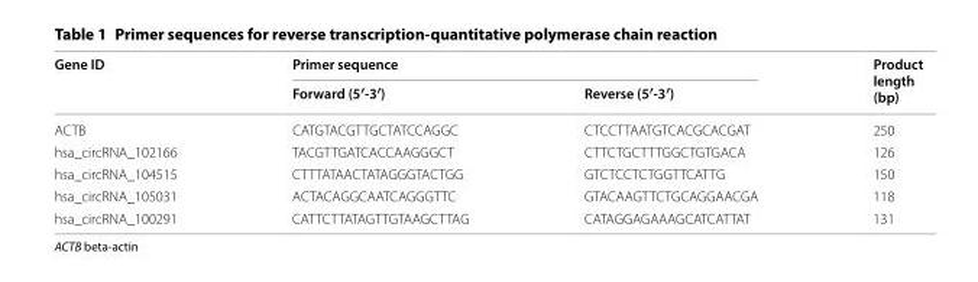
<table><thead><tr><td rowspan="2">Gene ID</td><td colspan="2">Primer sequence</td><td rowspan="2">Product length (bp)</td></tr><tr><td>Forward (5′‑3′)</td><td>Reverse (5′‑3′)</td></tr></thead><tbody><tr><td>ACTB</td><td>CAT GTA CGT TGC TAT CCA GGC</td><td>CTC CTT AAT GTC ACG CAC GAT</td><td>250</td></tr><tr><td>hsa_circRNA_102166</td><td>TAC GTT GAT CAC CAA GGG CT</td><td>CTT CTG CTT TGG CTG TGA CA</td><td>126</td></tr><tr><td>hsa_circRNA_104515</td><td>CTT TAT AAC TAT AGG GTA CTGG</td><td>GTC TCC TCT GGT TCA TTG</td><td>150</td></tr><tr><td>hsa_circRNA_105031</td><td>ACT ACA GGC AAT CAG GGT TC</td><td>GTA CAA GTT CTG CAG GAA CGA</td><td>118</td></tr><tr><td>hsa_circRNA_100291</td><td>CAT TCT TAT AGT TGT AAG CTTAG</td><td>CAT AGG AGA AAG CAT CAT TAT</td><td>131</td></tr></tbody></table>